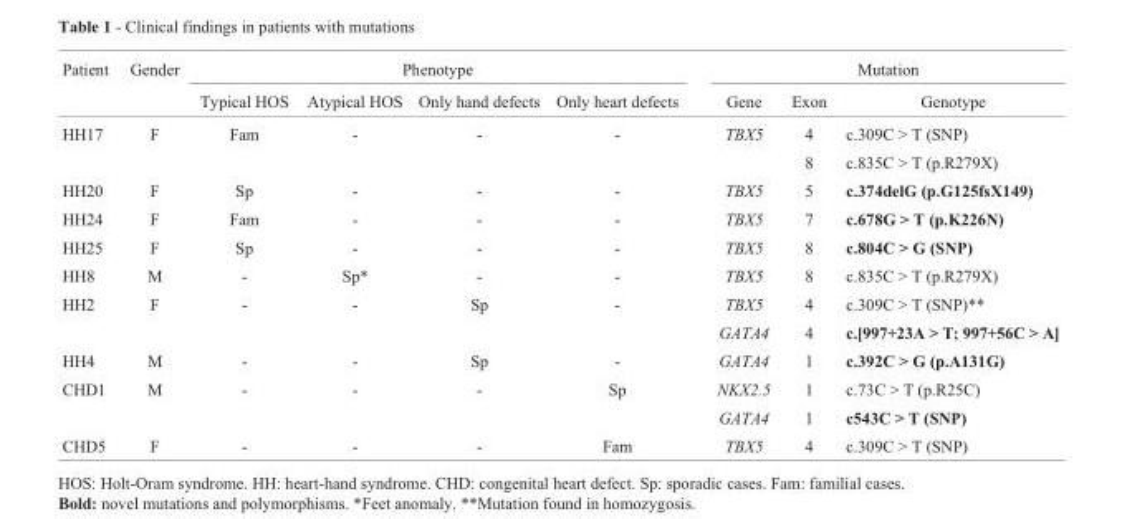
<table><thead><tr><td rowspan="2">Patient</td><td rowspan="2">Gender</td><td colspan="4">Phenotype</td><td colspan="3">Mutation</td></tr><tr><td>Typical HOS</td><td>Atypical HOS</td><td>Only hand defects</td><td>Only heart defects</td><td>Gene</td><td>Exon</td><td>Genotype</td></tr></thead><tbody><tr><td rowspan="2">HH17</td><td>F</td><td>Fam</td><td>-</td><td>-</td><td>-</td><td>TBX5</td><td>4</td><td>c.309C &gt; T (SNP)</td></tr><tr><td></td><td></td><td></td><td></td><td></td><td></td><td>8</td><td>c.835C &gt; T (p.R279X)</td></tr><tr><td>HH20</td><td>F</td><td>Sp</td><td>-</td><td>-</td><td>-</td><td>TBX5</td><td>5</td><td>c.374delG (p.G125fsX149)</td></tr><tr><td>HH24</td><td>F</td><td>Fam</td><td>-</td><td>-</td><td>-</td><td>TBX5</td><td>7</td><td>c.678G &gt; T (p.K226N)</td></tr><tr><td>HH25</td><td>F</td><td>Sp</td><td>-</td><td>-</td><td>-</td><td>TBX5</td><td>8</td><td>c.804C &gt; G (SNP)</td></tr><tr><td>HH8</td><td>M</td><td>-</td><td>Sp*</td><td>-</td><td>-</td><td>TBX5</td><td>8</td><td>c.835C &gt; T (p.R279X)</td></tr><tr><td rowspan="2">HH2</td><td>F</td><td>-</td><td>-</td><td>Sp</td><td>-</td><td>TBX5</td><td>4</td><td>c.309C &gt; T (SNP)**</td></tr><tr><td></td><td></td><td></td><td></td><td></td><td>GATA4</td><td>4</td><td>c.[997+23A &gt; T; 997+56C &gt; A]</td></tr><tr><td>HH4</td><td>M</td><td>-</td><td>-</td><td>Sp</td><td>-</td><td>GATA4</td><td>1</td><td>c.392C &gt; G (p.A131G)</td></tr><tr><td rowspan="2">CHD1</td><td>M</td><td>-</td><td>-</td><td>-</td><td>Sp</td><td>NKX2.5</td><td>1</td><td>c.73C &gt; T (p.R25C)</td></tr><tr><td></td><td></td><td></td><td></td><td></td><td>GATA4</td><td>1</td><td>c543C &gt; T (SNP)</td></tr><tr><td>CHD5</td><td>F</td><td>-</td><td>-</td><td>-</td><td>Fam</td><td>TBX5</td><td>4</td><td>c.309C &gt; T (SNP)</td></tr></tbody></table>